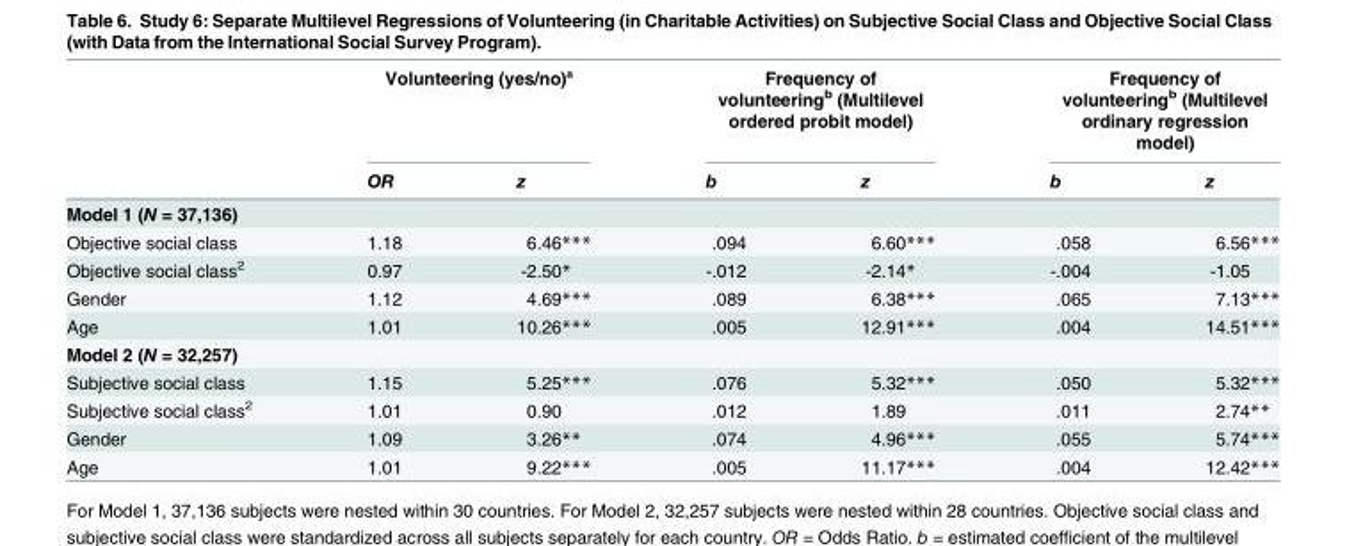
<table><thead><tr><td rowspan="2"></td><td colspan="2">Volunteering (yes/no)ª</td><td colspan="2">Frequency of volunteering<sup>b</sup> (Multilevel ordered probit model)</td><td colspan="2">Frequency of volunteering<sup>b</sup> (Multilevel ordinary regression model)</td></tr><tr><td>OR</td><td>z</td><td>b</td><td>z</td><td>b</td><td>z</td></tr></thead><tbody><tr><td colspan="7">Model 1 (N = 37,136)</td></tr><tr><td>Objective social class</td><td>1.18</td><td>6.46***</td><td>.094</td><td>6.60***</td><td>.058</td><td>6.56***</td></tr><tr><td>Objective social class<sup>2</sup></td><td>0.97</td><td>-2.50*</td><td>-.012</td><td>-2.14*</td><td>-.004</td><td>-1.05</td></tr><tr><td>Gender</td><td>1.12</td><td>4.69***</td><td>.089</td><td>6.38***</td><td>.065</td><td>7.13***</td></tr><tr><td>Age</td><td>1.01</td><td>10.26***</td><td>.005</td><td>12.91***</td><td>.004</td><td>14.51***</td></tr><tr><td colspan="7">Model 2 (N = 32,257)</td></tr><tr><td>Subjective social class</td><td>1.15</td><td>5.25***</td><td>.076</td><td>5.32***</td><td>.050</td><td>5.32***</td></tr><tr><td>Subjective social class<sup>2</sup></td><td>1.01</td><td>0.90</td><td>.012</td><td>1.89</td><td>.011</td><td>2.74**</td></tr><tr><td>Gender</td><td>1.09</td><td>3.26**</td><td>.074</td><td>4.96***</td><td>.055</td><td>5.74***</td></tr><tr><td>Age</td><td>1.01</td><td>9.22***</td><td>.005</td><td>11.17***</td><td>.004</td><td>12.42***</td></tr></tbody></table>